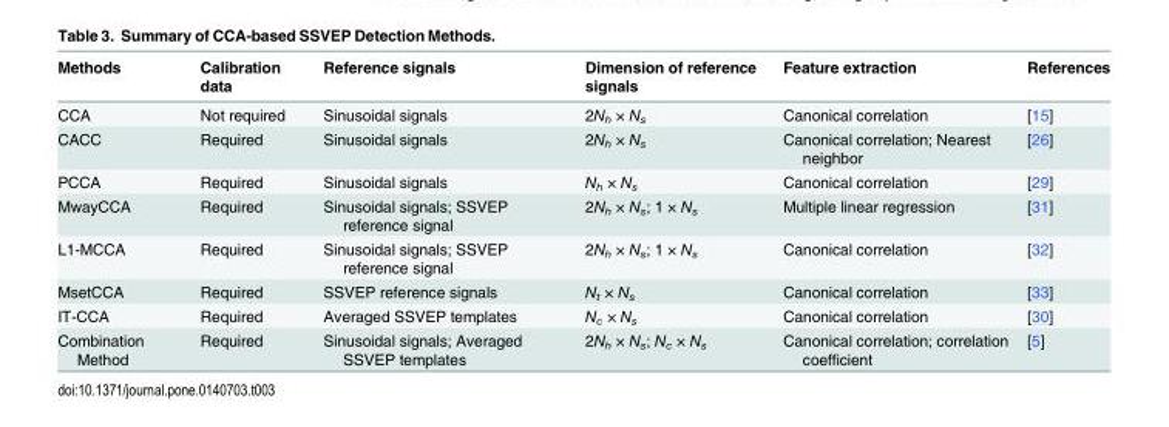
<table><thead><tr><td>Methods</td><td>Calibration data</td><td>Reference signals</td><td>Dimension of reference signals</td><td>Feature extraction</td><td>References</td></tr></thead><tbody><tr><td>CCA</td><td>Not required</td><td>Sinusoidal signals</td><td>2N<sub>h</sub> × N<sub>s</sub></td><td>Canonical correlation</td><td>[15]</td></tr><tr><td>CACC</td><td>Required</td><td>Sinusoidal signals</td><td>2N<sub>h</sub> × N<sub>s</sub></td><td>Canonical correlation; Nearest neighbor</td><td>[26]</td></tr><tr><td>PCCA</td><td>Required</td><td>Sinusoidal signals</td><td>N<sub>h</sub> × N<sub>s</sub></td><td>Canonical correlation</td><td>[29]</td></tr><tr><td>MwayCCA</td><td>Required</td><td>Sinusoidal signals; SSVEP reference signal</td><td>2N<sub>h</sub> × N<sub>s</sub>; 1 × N<sub>s</sub></td><td>Multiple linear regression</td><td>[31]</td></tr><tr><td>L1-MCCA</td><td>Required</td><td>Sinusoidal signals; SSVEP reference signal</td><td>2N<sub>h</sub> × N<sub>s</sub>; 1 × N<sub>s</sub></td><td>Canonical correlation</td><td>[32]</td></tr><tr><td>MsetCCA</td><td>Required</td><td>SSVEP reference signals</td><td>N<sub>t</sub> × N<sub>s</sub></td><td>Canonical correlation</td><td>[33]</td></tr><tr><td>IT-CCA</td><td>Required</td><td>Averaged SSVEP templates</td><td>N<sub>c</sub> × N<sub>s</sub></td><td>Canonical correlation</td><td>[30]</td></tr><tr><td>Combination Method</td><td>Required</td><td>Sinusoidal signals; Averaged SSVEP templates</td><td>2N<sub>h</sub> × N<sub>s</sub>; N<sub>c</sub> × N<sub>s</sub></td><td>Canonical correlation; correlation coefficient</td><td>[5]</td></tr></tbody></table>